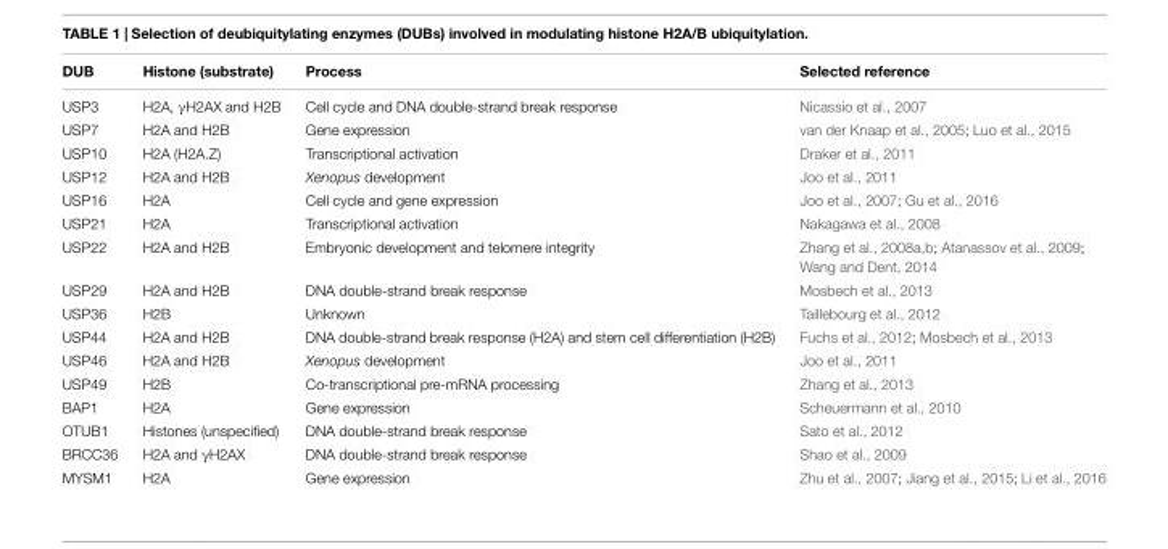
<table><thead><tr><td>DUB</td><td>Histone (substrate)</td><td>Process</td><td>Selected reference</td></tr></thead><tbody><tr><td>USP3</td><td>H2A, γH2AX and H2B</td><td>Cell cycle and DNA double-strand break response</td><td>Nicassio et al., 2007</td></tr><tr><td>USP7</td><td>H2A and H2B</td><td>Gene expression</td><td>van der Knaap et al., 2005; Luo et al., 2015</td></tr><tr><td>USP10</td><td>H2A (H2A.Z)</td><td>Transcriptional activation</td><td>Draker et al., 2011</td></tr><tr><td>USP12</td><td>H2A and H2B</td><td>Xenopus development</td><td>Joo et al., 2011</td></tr><tr><td>USP16</td><td>H2A</td><td>Cell cycle and gene expression</td><td>Joo et al., 2007; Gu et al., 2016</td></tr><tr><td>USP21</td><td>H2A</td><td>Transcriptional activation</td><td>Nakagawa et al., 2008</td></tr><tr><td>USP22</td><td>H2A and H2B</td><td>Embryonic development and telomere integrity</td><td>Zhang et al., 2008a,b; Atanassov et al., 2009; Wang and Dent, 2014</td></tr><tr><td>USP29</td><td>H2A and H2B</td><td>DNA double-strand break response</td><td>Mosbech et al., 2013</td></tr><tr><td>USP36</td><td>H2B</td><td>Unknown</td><td>Taillebourg et al., 2012</td></tr><tr><td>USP44</td><td>H2A and H2B</td><td>DNA double-strand break response (H2A) and stem cell differentiation (H2B)</td><td>Fuchs et al., 2012; Mosbech et al., 2013</td></tr><tr><td>USP46</td><td>H2A and H2B</td><td>Xenopus development</td><td>Joo et al., 2011</td></tr><tr><td>USP49</td><td>H2B</td><td>Co-transcriptional pre-mRNA processing</td><td>Zhang et al., 2013</td></tr><tr><td>BAP1</td><td>H2A</td><td>Gene expression</td><td>Scheuermann et al., 2010</td></tr><tr><td>OTUB1</td><td>Histones (unspecified)</td><td>DNA double-strand break response</td><td>Sato et al., 2012</td></tr><tr><td>BRCC36</td><td>H2A and γH2AX</td><td>DNA double-strand break response</td><td>Shao et al., 2009</td></tr><tr><td>MYSM1</td><td>H2A</td><td>Gene expression</td><td>Zhu et al., 2007; Jiang et al., 2015; Li et al., 2016</td></tr></tbody></table>